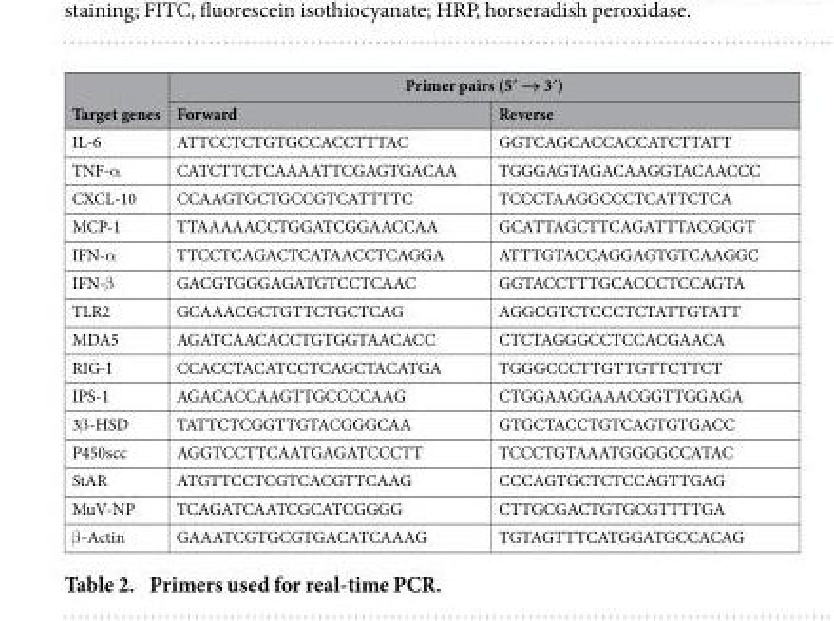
<table><thead><tr><td rowspan="2">Target genes</td><td colspan="2">Primer pairs (5′ → 3′)</td></tr><tr><td>Forward</td><td>Reverse</td></tr></thead><tbody><tr><td>IL-6</td><td>ATTCCTCTGTGCCACCTTTAC</td><td>GGTCAGCACCACCATCTTATT</td></tr><tr><td>TNF-α</td><td>CATCTTCTCAAAATTCGAGTGACAA</td><td>TGGGAGTAGACAAGGTACAACCC</td></tr><tr><td>CXCL-10</td><td>CCAAGTGCTGCCGTCATTTTC</td><td>TCCCTAAGGCCCTCATTCTCA</td></tr><tr><td>MCP-1</td><td>TTAAAAACCTGGATCGGAACCAA</td><td>GCATTAGCTTCAGATTTACGGGT</td></tr><tr><td>IFN-α</td><td>TTCCTCAGACTCATAACCTCAGGA</td><td>ATTTGTACCAGGAGTGTCAAGGC</td></tr><tr><td>IFN-β</td><td>GACGTGGGAGATGTCCTCAAC</td><td>GGTACCTTTGCACCCTCCAGTA</td></tr><tr><td>TLR2</td><td>GCAAACGCTGTTCTGCTCAG</td><td>AGGCGTCTCCCTCTATTGTATT</td></tr><tr><td>MDA5</td><td>AGATCAACACCTGTGGTAACACC</td><td>CTCTAGGGCCTCCACGAACA</td></tr><tr><td>RIG-I</td><td>CCACCTACATCCTCAGCTACATGA</td><td>TGGGCCCTTGTTGTTCTTCT</td></tr><tr><td>IPS-1</td><td>AGACACCAAGTTGCCCCAAG</td><td>CTGGAAGGAAACGGTTGGAGA</td></tr><tr><td>3β -HSD</td><td>TATTCTCGGTTGTACGGGCAA</td><td>GTGCTACCTGTCAGTGTGACC</td></tr><tr><td>P450scc</td><td>AGGTCCTTCAATGAGATCCCTT</td><td>TCCCTGTAAATGGGGCCATAC</td></tr><tr><td>StAR</td><td>ATGTTCCTCGTCACGTTCAAG</td><td>CCCAGTGCTCTCCAGTTGAG</td></tr><tr><td>MuV-NP</td><td>TCAGATCAATCGCATCGGGG</td><td>CTTGCGACTGTGCGTTTTGA</td></tr><tr><td>β -Actin</td><td>GAAATCGTGCGTGACATCAAAG</td><td>TGTAGTTTCATGGATGCCACAG</td></tr></tbody></table>